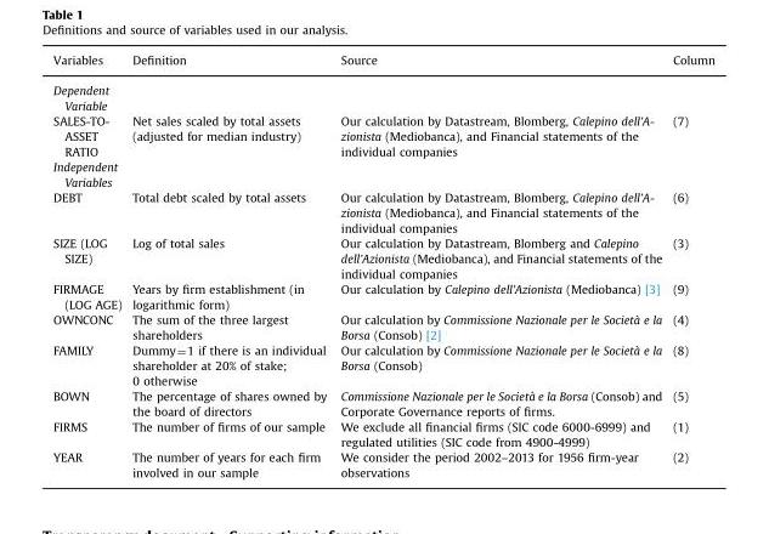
<table><thead><tr><td>Variables</td><td>Definition</td><td>Source</td><td>Column</td></tr></thead><tbody><tr><td colspan="4">Dependent Variable</td></tr><tr><td>SALES-TO- ASSET RATIO</td><td>Net sales scaled by total assets (adjusted for median industry)</td><td>Our calculation by Datastream, Blomberg, Calepino dell’A- zionista (Mediobanca), and Financial statements of the individual companies</td><td>(7)</td></tr><tr><td colspan="4">Independent Variables</td></tr><tr><td>DEBT</td><td>Total debt scaled by total assets</td><td>Our calculation by Datastream, Blomberg, Calepino dell’A- zionista (Mediobanca), and Financial statements of the individual companies</td><td>(6)</td></tr><tr><td>SIZE (LOG SIZE)</td><td>Log of total sales</td><td>Our calculation by Datastream, Blomberg and Calepino dell’Azionista (Mediobanca), and Financial statements of the individual companies</td><td>(3)</td></tr><tr><td>FIRMAGE (LOG AGE)</td><td>Years by firm establishment (in logarithmic form)</td><td>Our calculation by Calepino dell’Azionista (Mediobanca) [3]</td><td>(9)</td></tr><tr><td>OWNCONC</td><td>The sum of the three largest shareholders</td><td>Our calculation by Commissione Nazionale per le Società e la Borsa (Consob) [2]</td><td>(4)</td></tr><tr><td>FAMILY</td><td>Dummy=1 if there is an individual shareholder at 20% of stake; 0 otherwise</td><td>Our calculation by Commissione Nazionale per le Società e la Borsa (Consob)</td><td>(8)</td></tr><tr><td>BOWN</td><td>The percentage of shares owned by the board of directors</td><td>Commissione Nazionale per le Società e la Borsa (Consob) and Corporate Governance reports of firms.</td><td>(5)</td></tr><tr><td>FIRMS</td><td>The number of firms of our sample</td><td>We exclude all financial firms (SIC code 6000-6999) and regulated utilities (SIC code from 4900-4999)</td><td>(1)</td></tr><tr><td>YEAR</td><td>The number of years for each firm involved in our sample</td><td>We consider the period 2002–2013 for 1956 firm-year observations</td><td>(2)</td></tr></tbody></table>